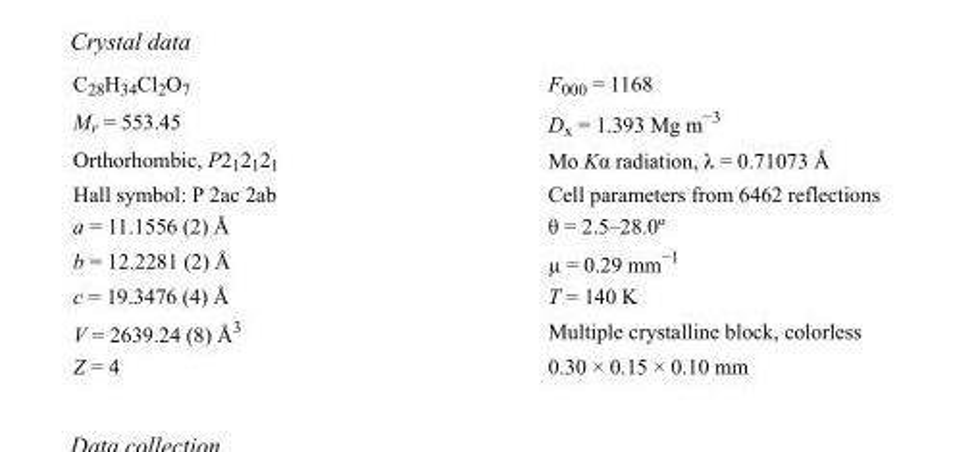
<table><tbody><tr><td>C<sub>28</sub>H<sub>34</sub>Cl<sub>2</sub>O<sub>7</sub></td><td>F000 = 1168</td></tr><tr><td>M<sub>r</sub> = 553.45</td><td>D<sub>x</sub> = 1.393 Mg m<sup>−3</sup></td></tr><tr><td>Orthorhombic, P2<sub>1</sub>2<sub>1</sub>2<sub>1</sub></td><td>Mo Kα radiation, λ = 0.71073 Å</td></tr><tr><td>Hall symbol: P 2ac 2ab</td><td>Cell parameters from 6462 reflections</td></tr><tr><td>a = 11.1556 (2) Å</td><td>θ = 2.5–28.0º</td></tr><tr><td>b = 12.2281 (2) Å</td><td>µ = 0.29 mm<sup>−1</sup></td></tr><tr><td>c = 19.3476 (4) Å</td><td>T = 140 K</td></tr><tr><td>V = 2639.24 (8) Å<sup>3</sup></td><td>Multiple crystalline block, colorless</td></tr><tr><td>Z = 4</td><td>0.30 × 0.15 × 0.10 mm</td></tr></tbody></table>